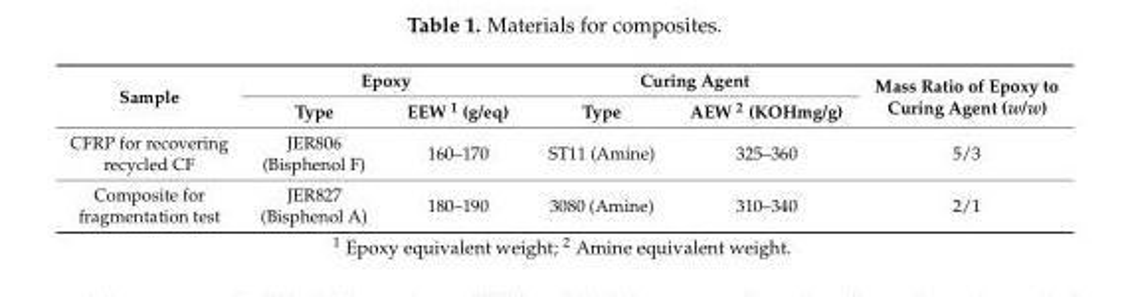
<table><thead><tr><td rowspan="2">Sample</td><td colspan="2">Epoxy</td><td colspan="2">Curing Agent</td><td rowspan="2">Mass Ratio of Epoxy to Curing Agent (w/w)</td></tr><tr><td>Type</td><td>EEW <sup>1</sup> (g/eq)</td><td>Type</td><td>AEW <sup>2</sup> (KOHmg/g)</td></tr></thead><tbody><tr><td>CFRP for recovering recycled CF</td><td>JER806 (Bisphenol F)</td><td>160–170</td><td>ST11 (Amine)</td><td>325–360</td><td>5/3</td></tr><tr><td>Composite for fragmentation test</td><td>JER827 (Bisphenol A)</td><td>180–190</td><td>3080 (Amine)</td><td>310–340</td><td>2/1</td></tr></tbody></table>